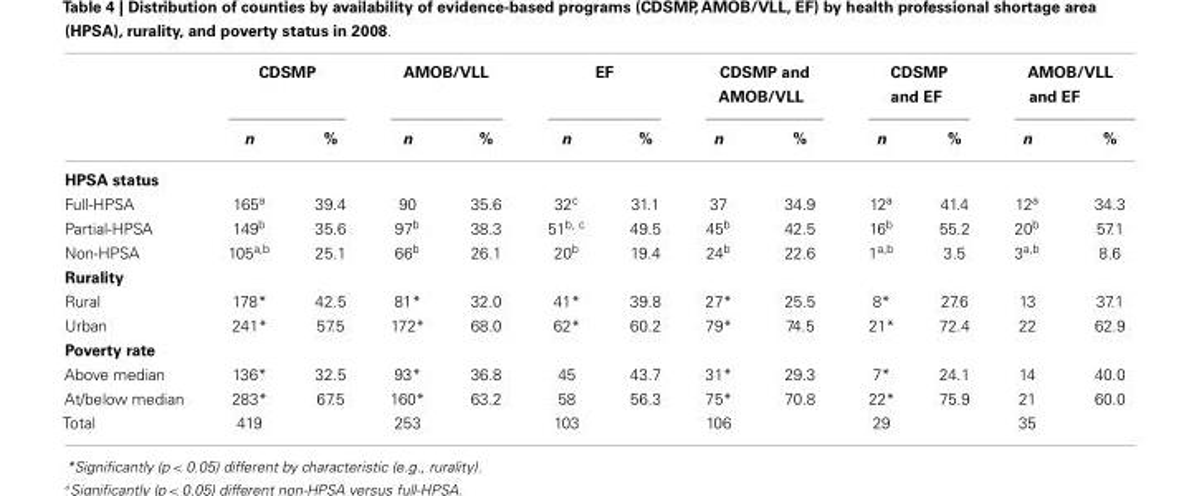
<table><thead><tr><td rowspan="2"></td><td colspan="2">CDSMP</td><td colspan="2">AMOB/VLL</td><td colspan="2">EF</td><td colspan="2">CDSMP and AMOB/VLL</td><td colspan="2">CDSMP and EF</td><td colspan="2">AMOB/VLL and EF</td></tr><tr><td>n</td><td>%</td><td>n</td><td>%</td><td>n</td><td>%</td><td>n</td><td>%</td><td>n</td><td>%</td><td>n</td><td>%</td></tr></thead><tbody><tr><td colspan="13">HPSA status</td></tr><tr><td>Full-HPSA</td><td>165<sup>a</sup></td><td>39.4</td><td>90</td><td>35.6</td><td>32<sup>c</sup></td><td>31.1</td><td>37</td><td>34.9</td><td>12<sup>a</sup></td><td>41.4</td><td>12<sup>a</sup></td><td>34.3</td></tr><tr><td>Partial-HPSA</td><td>149<sup>b</sup></td><td>35.6</td><td>97<sup>b</sup></td><td>38.3</td><td>51<sup>b, c</sup></td><td>49.5</td><td>45<sup>b</sup></td><td>42.5</td><td>16<sup>b</sup></td><td>55.2</td><td>20<sup>b</sup></td><td>57.1</td></tr><tr><td>Non-HPSA</td><td>105<sup>a,b</sup></td><td>25.1</td><td>66<sup>b</sup></td><td>26.1</td><td>20<sup>b</sup></td><td>19.4</td><td>24<sup>b</sup></td><td>22.6</td><td>1<sup>a,b</sup></td><td>3.5</td><td>3<sup>a,b</sup></td><td>8.6</td></tr><tr><td colspan="13">Rurality</td></tr><tr><td>Rural</td><td>178*</td><td>42.5</td><td>81*</td><td>32.0</td><td>41*</td><td>39.8</td><td>27*</td><td>25.5</td><td>8*</td><td>27.6</td><td>13</td><td>37.1</td></tr><tr><td>Urban</td><td>241*</td><td>57.5</td><td>172*</td><td>68.0</td><td>62*</td><td>60.2</td><td>79*</td><td>74.5</td><td>21*</td><td>72.4</td><td>22</td><td>62.9</td></tr><tr><td colspan="13">Poverty rate</td></tr><tr><td>Above median</td><td>136*</td><td>32.5</td><td>93*</td><td>36.8</td><td>45</td><td>43.7</td><td>31*</td><td>29.3</td><td>7*</td><td>24.1</td><td>14</td><td>40.0</td></tr><tr><td>At/below median</td><td>283*</td><td>67.5</td><td>160*</td><td>63.2</td><td>58</td><td>56.3</td><td>75*</td><td>70.8</td><td>22*</td><td>75.9</td><td>21</td><td>60.0</td></tr><tr><td>Total</td><td>419</td><td></td><td>253</td><td></td><td>103</td><td></td><td>106</td><td></td><td>29</td><td></td><td>35</td><td></td></tr></tbody></table>